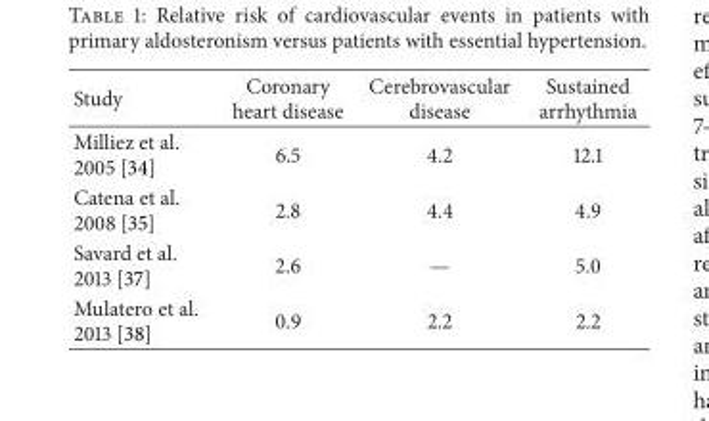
<table><thead><tr><td>Study</td><td>Coronary heart disease</td><td>Cerebrovascular disease</td><td>Sustained arrhythmia</td></tr></thead><tbody><tr><td>Milliez et al. 2005 [34]</td><td>6.5</td><td>4.2</td><td>12.1</td></tr><tr><td>Catena et al. 2008 [35]</td><td>2.8</td><td>4.4</td><td>4.9</td></tr><tr><td>Savard et al. 2013 [37]</td><td>2.6</td><td>—</td><td>5.0</td></tr><tr><td>Mulatero et al. 2013 [38]</td><td>0.9</td><td>2.2</td><td>2.2</td></tr></tbody></table>